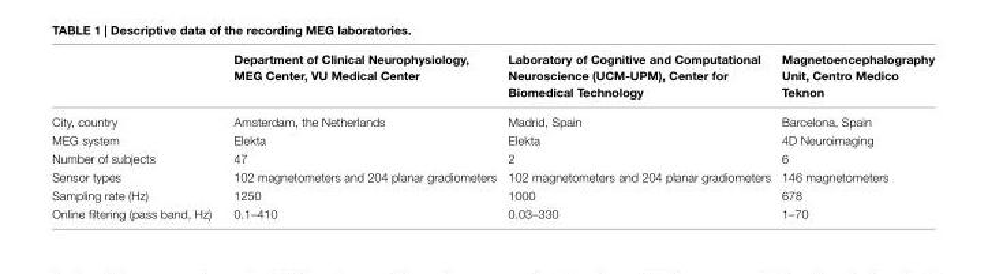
<table><thead><tr><td></td><td>Department of clinical neurophysiology, Meg center, VU Medical center</td><td>laboratory of cognitive and computational neuroscience (UcM-UPM), center for Biomedical Technology</td><td>Magnetoencephalography Unit, centro Medico Teknon</td></tr></thead><tbody><tr><td>City, country</td><td>Amsterdam, the Netherlands</td><td>Madrid, Spain</td><td>Barcelona, Spain</td></tr><tr><td>MEG system</td><td>Elekta</td><td>Elekta</td><td>4D Neuroimaging</td></tr><tr><td>Number of subjects</td><td>47</td><td>2</td><td>6</td></tr><tr><td>Sensor types</td><td>102 magnetometers and 204 planar gradiometers</td><td>102 magnetometers and 204 planar gradiometers</td><td>146 magnetometers</td></tr><tr><td>Sampling rate (Hz)</td><td>1250</td><td>1000</td><td>678</td></tr><tr><td>Online filtering (pass band, Hz)</td><td>0.1–410</td><td>0.03–330</td><td>1–70</td></tr></tbody></table>